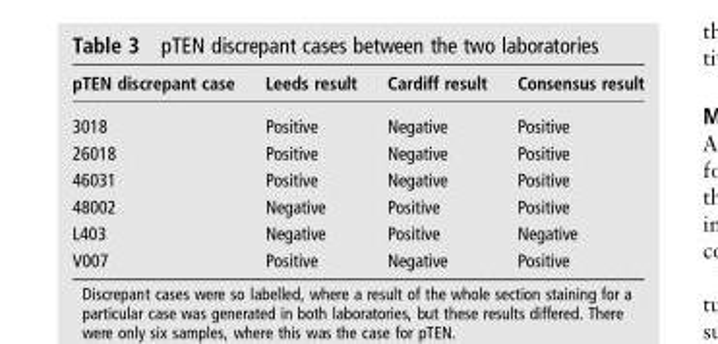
<table><thead><tr><td>pTEN discrepant case</td><td>Leeds result</td><td>Cardiff result</td><td>Consensus result</td></tr></thead><tbody><tr><td>3018</td><td>Positive</td><td>Negative</td><td>Positive</td></tr><tr><td>26018</td><td>Positive</td><td>Negative</td><td>Positive</td></tr><tr><td>46031</td><td>Positive</td><td>Negative</td><td>Positive</td></tr><tr><td>48002</td><td>Negative</td><td>Positive</td><td>Positive</td></tr><tr><td>L403</td><td>Negative</td><td>Positive</td><td>Negative</td></tr><tr><td>V007</td><td>Positive</td><td>Negative</td><td>Positive</td></tr></tbody></table>